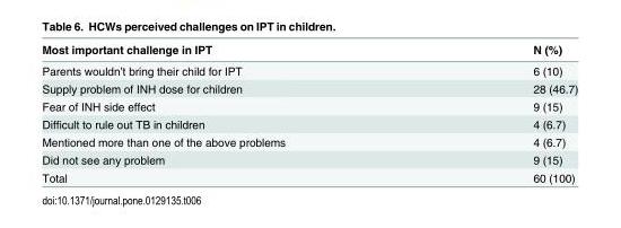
<table><thead><tr><td>Most important challenge in IPT</td><td>N (%)</td></tr></thead><tbody><tr><td>Parents wouldn’t bring their child for IPT</td><td>6 (10)</td></tr><tr><td>Supply problem of INH dose for children</td><td>28 (46.7)</td></tr><tr><td>Fear of INH side effect</td><td>9 (15)</td></tr><tr><td>Difficult to rule out TB in children</td><td>4 (6.7)</td></tr><tr><td>Mentioned more than one of the above problems</td><td>4 (6.7)</td></tr><tr><td>Did not see any problem</td><td>9 (15)</td></tr><tr><td>Total</td><td>60 (100)</td></tr></tbody></table>